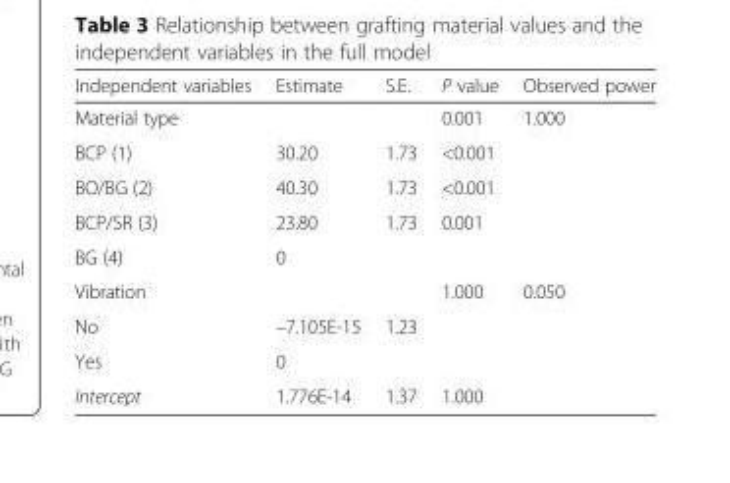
<table><thead><tr><td>Independent variables</td><td>Estimate</td><td>S.E.</td><td>P value</td><td>Observed power</td></tr></thead><tbody><tr><td>Material type</td><td></td><td></td><td>0.001</td><td>1.000</td></tr><tr><td>BCP (1)</td><td>30.20</td><td>1.73</td><td>&lt;0.001</td><td></td></tr><tr><td>BO/BG (2)</td><td>40.30</td><td>1.73</td><td>&lt;0.001</td><td></td></tr><tr><td>BCP/SR (3)</td><td>23.80</td><td>1.73</td><td>0.001</td><td></td></tr><tr><td>BG (4)</td><td>0</td><td></td><td></td><td></td></tr><tr><td>Vibration</td><td></td><td></td><td>1.000</td><td>0.050</td></tr><tr><td>No</td><td>–7.105E-15</td><td>1.23</td><td></td><td></td></tr><tr><td>Yes</td><td>0</td><td></td><td></td><td></td></tr><tr><td>Intercept</td><td>1.776E-14</td><td>1.37</td><td>1.000</td><td></td></tr></tbody></table>